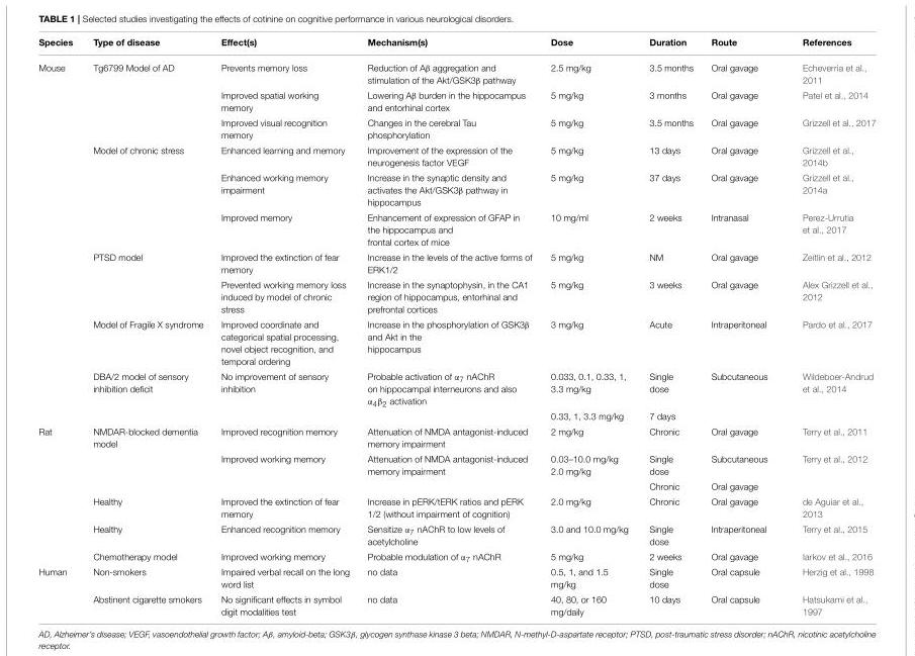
<table><thead><tr><td>Species</td><td>Type of disease</td><td>Effect(s)</td><td>Mechanism(s)</td><td>Dose</td><td>Duration</td><td>Route</td><td>References</td></tr></thead><tbody><tr><td rowspan="11">Mouse</td><td>Tg6799 Model of AD</td><td>Prevents memory loss</td><td>Reduction of Aβ aggregation and stimulation of the Akt/GSK3β pathway</td><td>2.5 mg/kg</td><td>3.5 months</td><td>Oral gavage</td><td>Echeverria et al., 2011</td></tr><tr><td></td><td>Improved spatial working memory</td><td>Lowering Aβ burden in the hippocampus and entorhinal cortex</td><td>5 mg/kg</td><td>3 months</td><td>Oral gavage</td><td>Patel et al., 2014</td></tr><tr><td></td><td>Improved visual recognition memory</td><td>Changes in the cerebral Tau phosphorylation</td><td>5 mg/kg</td><td>3.5 months</td><td>Oral gavage</td><td>Grizzell et al., 2017</td></tr><tr><td>Model of chronic stress</td><td>Enhanced learning and memory</td><td>Improvement of the expression of the neurogenesis factor VEGF</td><td>5 mg/kg</td><td>13 days</td><td>Oral gavage</td><td>Grizzell et al., 2014b</td></tr><tr><td></td><td>Enhanced working memory impairment</td><td>Increase in the synaptic density and activates the Akt/GSK3β pathway in hippocampus</td><td>5 mg/kg</td><td>37 days</td><td>Oral gavage</td><td>Grizzell et al., 2014a</td></tr><tr><td></td><td>Improved memory</td><td>Enhancement of expression of GFAP in the hippocampus and frontal cortex of mice</td><td>10 mg/ml</td><td>2 weeks</td><td>Intranasal</td><td>Perez-Urrutia et al., 2017</td></tr><tr><td>PTSD model</td><td>Improved the extinction of fear memory</td><td>Increase in the levels of the active forms of ERK1/2</td><td>5 mg/kg</td><td>NM</td><td>Oral gavage</td><td>Zeitlin et al., 2012</td></tr><tr><td></td><td>Prevented working memory loss induced by model of chronic stress</td><td>Increase in the synaptophysin, in the CA1 region of hippocampus, entorhinal and prefrontal cortices</td><td>5 mg/kg</td><td>3 weeks</td><td>Oral gavage</td><td>Alex Grizzell et al., 2012</td></tr><tr><td>Model of Fragile X syndrome</td><td>Improved coordinate and categorical spatial processing, novel object recognition, and temporal ordering</td><td>Increase in the phosphorylation of GSK3β and Akt in the hippocampus</td><td>3 mg/kg</td><td>Acute</td><td>Intraperitoneal</td><td>Pardo et al., 2017</td></tr><tr><td>DBA/2 model of sensory inhibition deficit</td><td>No improvement of sensory inhibition</td><td>Probable activation of α<sub>7</sub> nAChR on hippocampal interneurons and also α<sub>4</sub>β<sub>2</sub> activation</td><td>0.033, 0.1, 0.33, 1, 3.3 mg/kg</td><td>Single dose</td><td>Subcutaneous</td><td>Wildeboer-Andrud et al., 2014</td></tr><tr><td></td><td></td><td></td><td>0.33, 1, 3.3 mg/kg</td><td>7 days</td><td></td><td></td></tr><tr><td rowspan="6">Rat</td><td>NMDAR-blocked dementia model</td><td>Improved recognition memory</td><td>Attenuation of NMDA antagonist-induced memory impairment</td><td>2 mg/kg</td><td>Chronic</td><td>Oral gavage</td><td>Terry et al., 2011</td></tr><tr><td></td><td>Improved working memory</td><td>Attenuation of NMDA antagonist-induced memory impairment</td><td>0.03–10.0 mg/kg 2.0 mg/kg</td><td>Single dose</td><td>Subcutaneous</td><td>Terry et al., 2012</td></tr><tr><td></td><td></td><td></td><td></td><td>Chronic</td><td>Oral gavage</td><td></td></tr><tr><td>Healthy</td><td>Improved the extinction of fear memory</td><td>Increase in pERK/tERK ratios and pERK 1/2 (without impairment of cognition)</td><td>2.0 mg/kg</td><td>Chronic</td><td>Oral gavage</td><td>de Aguiar et al., 2013</td></tr><tr><td>Healthy</td><td>Enhanced recognition memory</td><td>Sensitize α<sub>7</sub> nAChR to low levels of acetylcholine</td><td>3.0 and 10.0 mg/kg</td><td>Single dose</td><td>Intraperitoneal</td><td>Terry et al., 2015</td></tr><tr><td>Chemotherapy model</td><td>Improved working memory</td><td>Probable modulation of α<sub>7</sub> nAChR</td><td>5 mg/kg</td><td>2 weeks</td><td>Oral gavage</td><td>Iarkov et al., 2016</td></tr><tr><td rowspan="2">Human</td><td>Non-smokers</td><td>Impaired verbal recall on the long word list</td><td>no data</td><td>0.5, 1, and 1.5 mg/kg</td><td>Single dose</td><td>Oral capsule</td><td>Herzig et al., 1998</td></tr><tr><td>Abstinent cigarette smokers</td><td>No significant effects in symbol digit modalities test</td><td>no data</td><td>40, 80, or 160 mg/daily</td><td>10 days</td><td>Oral capsule</td><td>Hatsukami et al., 1997</td></tr></tbody></table>